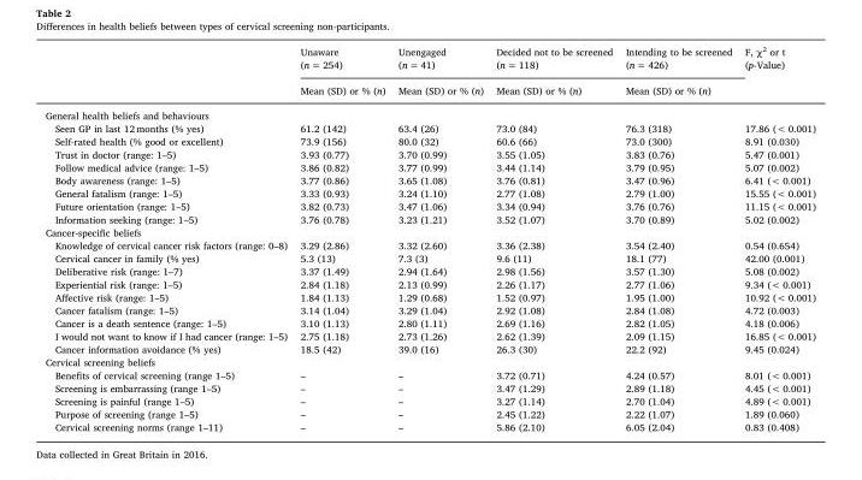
<table><thead><tr><td rowspan="2"></td><td rowspan="2">Unaware (n = 254) Mean (SD) or % (n)</td><td rowspan="2">Unengaged (n = 41) Mean (SD) or % (n)</td><td rowspan="2">Decided not to be screened (n = 118) Mean (SD) or % (n)</td><td rowspan="2">Intending to be screened (n = 426) Mean (SD) or % (n)</td><td rowspan="2">F, χ<sup>2</sup> or t (p-Value)</td></tr><tr></tr></thead><tbody><tr><td colspan="6">General health beliefs and behaviours</td></tr><tr><td>Seen GP in last 12 months (% yes)</td><td>61.2 (142)</td><td>63.4 (26)</td><td>73.0 (84)</td><td>76.3 (318)</td><td>17.86 (&lt; 0.001)</td></tr><tr><td>Self-rated health (% good or excellent)</td><td>73.9 (156)</td><td>80.0 (32)</td><td>60.6 (66)</td><td>73.0 (300)</td><td>8.91 (0.030)</td></tr><tr><td>Trust in doctor (range: 1–5)</td><td>3.93 (0.77)</td><td>3.70 (0.99)</td><td>3.55 (1.05)</td><td>3.83 (0.76)</td><td>5.47 (0.001)</td></tr><tr><td>Follow medical advice (range: 1–5)</td><td>3.86 (0.82)</td><td>3.77 (0.99)</td><td>3.44 (1.14)</td><td>3.79 (0.95)</td><td>5.07 (0.002)</td></tr><tr><td>Body awareness (range: 1–5)</td><td>3.77 (0.86)</td><td>3.65 (1.08)</td><td>3.76 (0.81)</td><td>3.47 (0.96)</td><td>6.41 (&lt; 0.001)</td></tr><tr><td>General fatalism (range: 1–5)</td><td>3.33 (0.93)</td><td>3.24 (1.10)</td><td>2.77 (1.08)</td><td>2.79 (1.00)</td><td>15.55 (&lt; 0.001)</td></tr><tr><td>Future orientation (range: 1–5)</td><td>3.82 (0.73)</td><td>3.47 (1.06)</td><td>3.34 (0.94)</td><td>3.76 (0.76)</td><td>11.15 (&lt; 0.001)</td></tr><tr><td>Information seeking (range: 1–5)</td><td>3.76 (0.78)</td><td>3.23 (1.21)</td><td>3.52 (1.07)</td><td>3.70 (0.89)</td><td>5.02 (0.002)</td></tr><tr><td colspan="6">Cancer-specific beliefs</td></tr><tr><td>Knowledge of cervical cancer risk factors (range: 0–8)</td><td>3.29 (2.86)</td><td>3.32 (2.60)</td><td>3.36 (2.38)</td><td>3.54 (2.40)</td><td>0.54 (0.654)</td></tr><tr><td>Cervical cancer in family (% yes)</td><td>5.3 (13)</td><td>7.3 (3)</td><td>9.6 (11)</td><td>18.1 (77)</td><td>42.00 (0.001)</td></tr><tr><td>Deliberative risk (range: 1–7)</td><td>3.37 (1.49)</td><td>2.94 (1.64)</td><td>2.98 (1.56)</td><td>3.57 (1.30)</td><td>5.08 (0.002)</td></tr><tr><td>Experiential risk (range: 1–5)</td><td>2.84 (1.18)</td><td>2.13 (0.99)</td><td>2.26 (1.17)</td><td>2.77 (1.06)</td><td>9.34 (&lt; 0.001)</td></tr><tr><td>Affective risk (range: 1–5)</td><td>1.84 (1.13)</td><td>1.29 (0.68)</td><td>1.52 (0.97)</td><td>1.95 (1.00)</td><td>10.92 (&lt; 0.001)</td></tr><tr><td>Cancer fatalism (range: 1–5)</td><td>3.14 (1.04)</td><td>3.29 (1.04)</td><td>2.92 (1.08)</td><td>2.84 (1.08)</td><td>4.72 (0.003)</td></tr><tr><td>Cancer is a death sentence (range: 1–5)</td><td>3.10 (1.13)</td><td>2.80 (1.11)</td><td>2.69 (1.16)</td><td>2.82 (1.05)</td><td>4.18 (0.006)</td></tr><tr><td>I would not want to know if I had cancer (range: 1–5)</td><td>2.75 (1.18)</td><td>2.73 (1.26)</td><td>2.62 (1.39)</td><td>2.09 (1.15)</td><td>16.85 (&lt; 0.001)</td></tr><tr><td>Cancer information avoidance (% yes)</td><td>18.5 (42)</td><td>39.0 (16)</td><td>26.3 (30)</td><td>22.2 (92)</td><td>9.45 (0.024)</td></tr><tr><td colspan="6">Cervical screening beliefs</td></tr><tr><td>Benefits of cervical screening (range 1–5)</td><td>–</td><td>–</td><td>3.72 (0.71)</td><td>4.24 (0.57)</td><td>8.01 (&lt; 0.001)</td></tr><tr><td>Screening is embarrassing (range 1–5)</td><td>–</td><td>–</td><td>3.47 (1.29)</td><td>2.89 (1.18)</td><td>4.45 (&lt; 0.001)</td></tr><tr><td>Screening is painful (range 1–5)</td><td>–</td><td>–</td><td>3.27 (1.14)</td><td>2.70 (1.04)</td><td>4.89 (&lt; 0.001)</td></tr><tr><td>Purpose of screening (range 1–5)</td><td>–</td><td>–</td><td>2.45 (1.22)</td><td>2.22 (1.07)</td><td>1.89 (0.060)</td></tr><tr><td>Cervical screening norms (range 1–11)</td><td>–</td><td>–</td><td>5.86 (2.10)</td><td>6.05 (2.04)</td><td>0.83 (0.408)</td></tr></tbody></table>